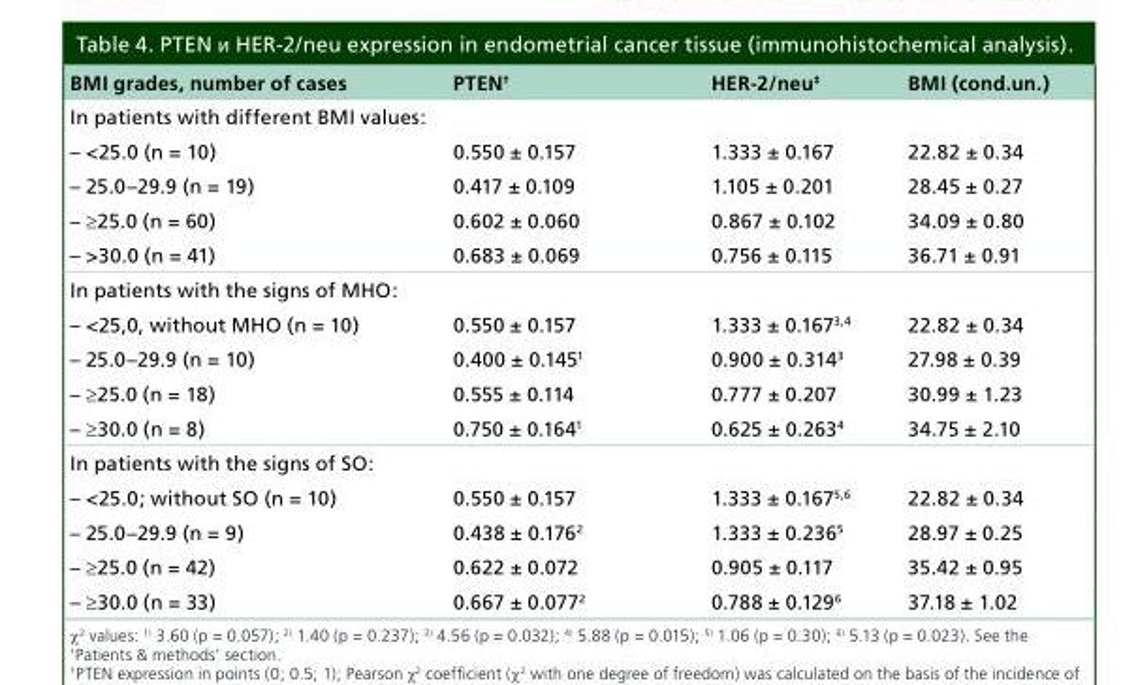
<table><thead><tr><td>BMI grades, number of cases</td><td>PTEN<sup>†</sup></td><td>HER-2/neu<sup>‡</sup></td><td>BMI (cond.un.)</td></tr></thead><tbody><tr><td colspan="4">In patients with different BMI values:</td></tr><tr><td>– &lt;25.0 (n = 10)</td><td>0.550 ± 0.157</td><td>1.333 ± 0.167</td><td>22.82 ± 0.34</td></tr><tr><td>– 25.0–29.9 (n = 19)</td><td>0.417 ± 0.109</td><td>1.105 ± 0.201</td><td>28.45 ± 0.27</td></tr><tr><td>– ≥25.0 (n = 60)</td><td>0.602 ± 0.060</td><td>0.867 ± 0.102</td><td>34.09 ± 0.80</td></tr><tr><td>– &gt;30.0 (n = 41)</td><td>0.683 ± 0.069</td><td>0.756 ± 0.115</td><td>36.71 ± 0.91</td></tr><tr><td colspan="4">In patients with the signs of MHO:</td></tr><tr><td>– &lt;25,0, without MHO (n = 10)</td><td>0.550 ± 0.157</td><td>1.333 ± 0.167<sup>3,4</sup></td><td>22.82 ± 0.34</td></tr><tr><td>– 25.0–29.9 (n = 10)</td><td>0.400 ± 0.145<sup>1</sup></td><td>0.900 ± 0.314<sup>3</sup></td><td>27.98 ± 0.39</td></tr><tr><td>– ≥25.0 (n = 18)</td><td>0.555 ± 0.114</td><td>0.777 ± 0.207</td><td>30.99 ± 1.23</td></tr><tr><td>– ≥30.0 (n = 8)</td><td>0.750 ± 0.164<sup>1</sup></td><td>0.625 ± 0.263<sup>4</sup></td><td>34.75 ± 2.10</td></tr><tr><td colspan="4">In patients with the signs of SO:</td></tr><tr><td>– &lt;25.0; without SO (n = 10)</td><td>0.550 ± 0.157</td><td>1.333 ± 0.167<sup>5,6</sup></td><td>22.82 ± 0.34</td></tr><tr><td>– 25.0–29.9 (n = 9)</td><td>0.438 ± 0.176<sup>2</sup></td><td>1.333 ± 0.236<sup>5</sup></td><td>28.97 ± 0.25</td></tr><tr><td>– ≥25.0 (n = 42)</td><td>0.622 ± 0.072</td><td>0.905 ± 0.117</td><td>35.42 ± 0.95</td></tr><tr><td>– ≥30.0 (n = 33)</td><td>0.667 ± 0.077<sup>2</sup></td><td>0.788 ± 0.129<sup>6</sup></td><td>37.18 ± 1.02</td></tr></tbody></table>